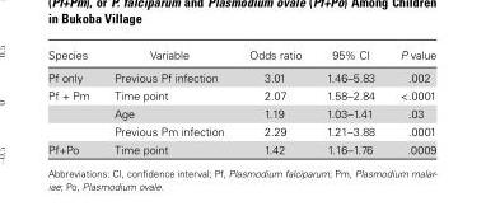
<table><thead><tr><td>Species</td><td>Variable</td><td>Odds ratio</td><td>95% CI</td><td>P value</td></tr></thead><tbody><tr><td>Pf only</td><td>Previous Pf infection</td><td>3.01</td><td>1.46–5.83</td><td>.002</td></tr><tr><td rowspan="3">Pf + Pm</td><td>Time point</td><td>2.07</td><td>1.58–2.84</td><td>&lt;.0001</td></tr><tr><td>Age</td><td>1.19</td><td>1.03–1.41</td><td>.03</td></tr><tr><td>Previous Pm infection</td><td>2.29</td><td>1.21–3.88</td><td>.0001</td></tr><tr><td>Pf+Po</td><td>Time point</td><td>1.42</td><td>1.16–1.76</td><td>.0009</td></tr></tbody></table>